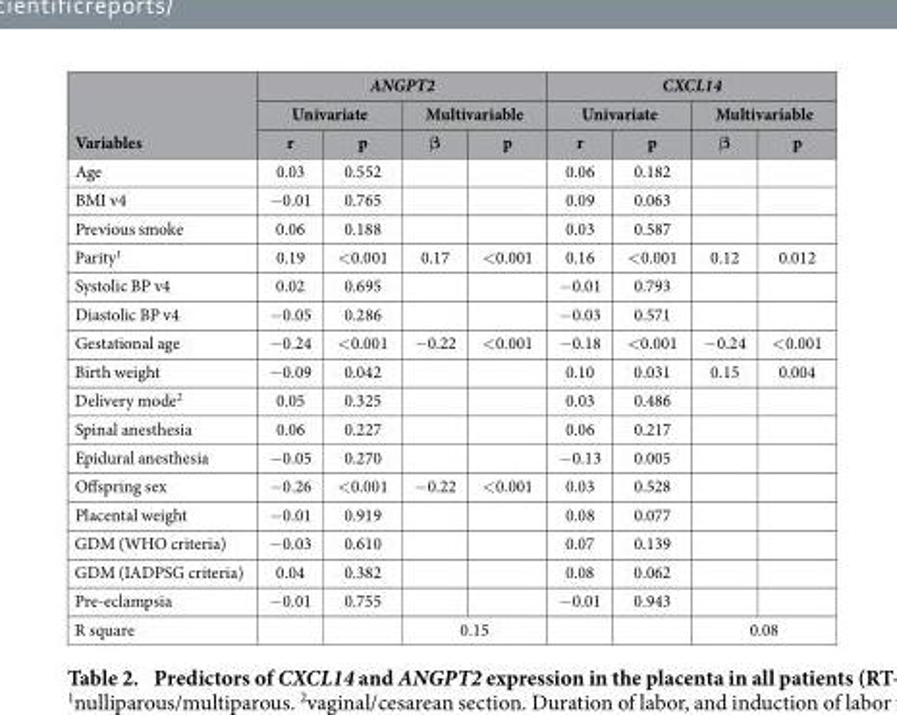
<table><thead><tr><td rowspan="3">Variables</td><td colspan="4">ANGPT2</td><td colspan="4">CXCL14</td></tr><tr><td colspan="2">Univariate</td><td colspan="2">Multivariable</td><td colspan="2">Univariate</td><td colspan="2">Multivariable</td></tr><tr><td>r</td><td>p</td><td>β</td><td>p</td><td>r</td><td>p</td><td>β</td><td>p</td></tr></thead><tbody><tr><td>Age</td><td>0.03</td><td>0.552</td><td></td><td></td><td>0.06</td><td>0.182</td><td></td><td></td></tr><tr><td>BMI v4</td><td>−0.01</td><td>0.765</td><td></td><td></td><td>0.09</td><td>0.063</td><td></td><td></td></tr><tr><td>Previous smoke</td><td>0.06</td><td>0.188</td><td></td><td></td><td>0.03</td><td>0.587</td><td></td><td></td></tr><tr><td>Parity<sup>1</sup></td><td>0.19</td><td>&lt;0.001</td><td>0.17</td><td>&lt;0.001</td><td>0.16</td><td>&lt;0.001</td><td>0.12</td><td>0.012</td></tr><tr><td>Systolic BP v4</td><td>0.02</td><td>0.695</td><td></td><td></td><td>−0.01</td><td>0.793</td><td></td><td></td></tr><tr><td>Diastolic BP v4</td><td>−0.05</td><td>0.286</td><td></td><td></td><td>−0.03</td><td>0.571</td><td></td><td></td></tr><tr><td>Gestational age</td><td>−0.24</td><td>&lt;0.001</td><td>−0.22</td><td>&lt;0.001</td><td>−0.18</td><td>&lt;0.001</td><td>−0.24</td><td>&lt;0.001</td></tr><tr><td>Birth weight</td><td>−0.09</td><td>0.042</td><td></td><td></td><td>0.10</td><td>0.031</td><td>0.15</td><td>0.004</td></tr><tr><td>Delivery mode<sup>2</sup></td><td>0.05</td><td>0.325</td><td></td><td></td><td>0.03</td><td>0.486</td><td></td><td></td></tr><tr><td>Spinal anesthesia</td><td>0.06</td><td>0.227</td><td></td><td></td><td>0.06</td><td>0.217</td><td></td><td></td></tr><tr><td>Epidural anesthesia</td><td>−0.05</td><td>0.270</td><td></td><td></td><td>−0.13</td><td>0.005</td><td></td><td></td></tr><tr><td>Offspring sex</td><td>−0.26</td><td>&lt;0.001</td><td>−0.22</td><td>&lt;0.001</td><td>0.03</td><td>0.528</td><td></td><td></td></tr><tr><td>Placental weight</td><td>−0.01</td><td>0.919</td><td></td><td></td><td>0.08</td><td>0.077</td><td></td><td></td></tr><tr><td>GDM (WHO criteria)</td><td>−0.03</td><td>0.610</td><td></td><td></td><td>0.07</td><td>0.139</td><td></td><td></td></tr><tr><td>GDM (IADPSG criteria)</td><td>0.04</td><td>0.382</td><td></td><td></td><td>0.08</td><td>0.062</td><td></td><td></td></tr><tr><td>Pre-eclampsia</td><td>−0.01</td><td>0.755</td><td></td><td></td><td>−0.01</td><td>0.943</td><td></td><td></td></tr><tr><td>R square</td><td></td><td></td><td colspan="2">0.15</td><td></td><td></td><td colspan="2">0.08</td></tr></tbody></table>